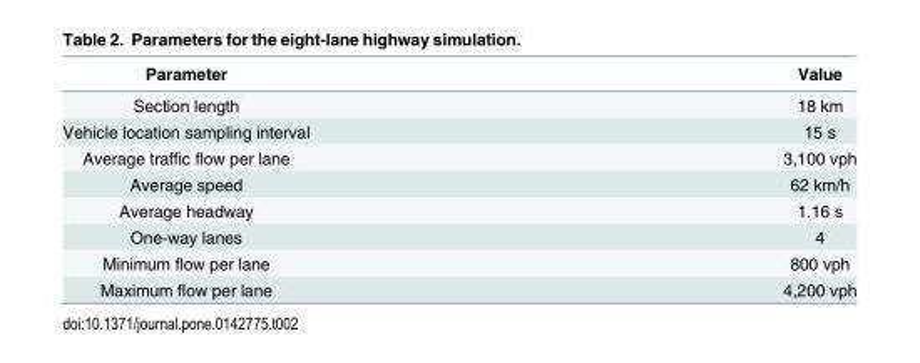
<table><thead><tr><td>Parameter</td><td>Value</td></tr></thead><tbody><tr><td>Section length</td><td>18 km</td></tr><tr><td>Vehicle location sampling interval</td><td>15 s</td></tr><tr><td>Average traffic flow per lane</td><td>3,100 vph</td></tr><tr><td>Average speed</td><td>62 km/h</td></tr><tr><td>Average headway</td><td>1.16 s</td></tr><tr><td>One-way lanes</td><td>4</td></tr><tr><td>Minimum flow per lane</td><td>800 vph</td></tr><tr><td>Maximum flow per lane</td><td>4,200 vph</td></tr></tbody></table>